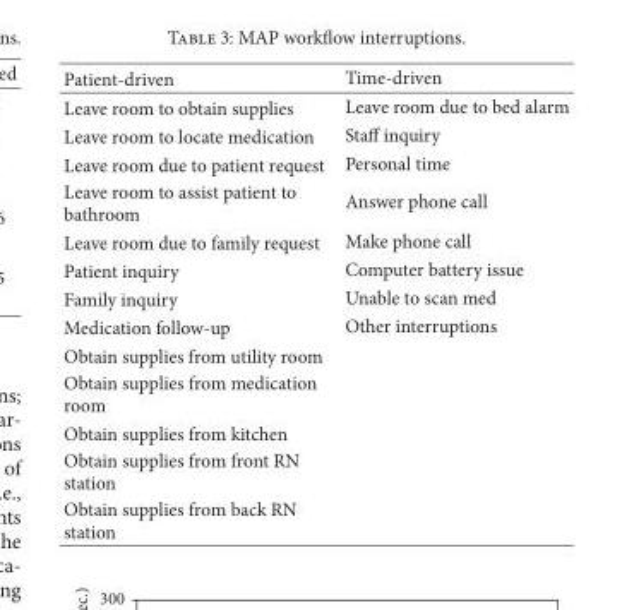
<table><thead><tr><td>Patient-driven</td><td>Time-driven</td></tr></thead><tbody><tr><td>Leave room to obtain supplies</td><td>Leave room due to bed alarm</td></tr><tr><td>Leave room to locate medication</td><td>Staff inquiry</td></tr><tr><td>Leave room due to patient request</td><td>Personal time</td></tr><tr><td>Leave room to assist patient to bathroom</td><td>Answer phone call</td></tr><tr><td>Leave room due to family request</td><td>Make phone call</td></tr><tr><td>Patient inquiry</td><td>Computer battery issue</td></tr><tr><td>Family inquiry</td><td>Unable to scan med</td></tr><tr><td>Medication follow-up</td><td>Other interruptions</td></tr><tr><td colspan="2">Obtain supplies from utility room</td></tr><tr><td colspan="2">Obtain supplies from medication room</td></tr><tr><td colspan="2">Obtain supplies from kitchen</td></tr><tr><td colspan="2">Obtain supplies from front RN station</td></tr><tr><td>Obtain supplies from back RN station</td><td></td></tr></tbody></table>